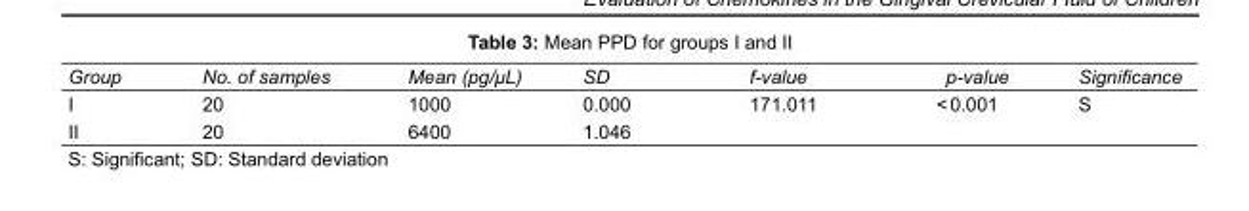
<table><tbody><tr><td>Group</td><td>No. of samples</td><td>Mean (pg/μL)</td><td>SD</td><td>f-value</td><td>p-value</td><td>Significance</td></tr><tr><td>I</td><td>20</td><td>1000</td><td>0.000</td><td>171.011</td><td>&lt; 0.001</td><td>S</td></tr><tr><td>II</td><td>20</td><td>6400</td><td>1.046</td><td></td><td></td><td></td></tr></tbody></table>